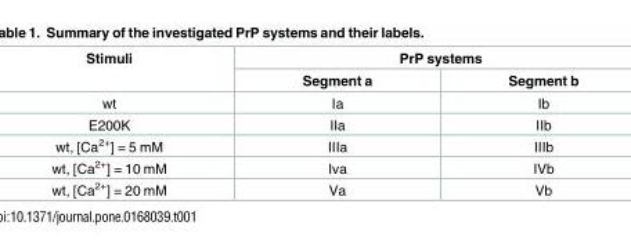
<table><thead><tr><td rowspan="2">Stimuli</td><td colspan="2">PrP systems</td></tr><tr><td>Segment a</td><td>Segment b</td></tr></thead><tbody><tr><td>wt</td><td>Ia</td><td>Ib</td></tr><tr><td>E200K</td><td>IIa</td><td>IIb</td></tr><tr><td>wt, [Ca<sup>2+</sup>] = 5 mM</td><td>IIIa</td><td>IIIb</td></tr><tr><td>wt, [Ca<sup>2+</sup>] = 10 mM</td><td>Iva</td><td>IVb</td></tr><tr><td>wt, [Ca<sup>2+</sup>] = 20 mM</td><td>Va</td><td>Vb</td></tr></tbody></table>